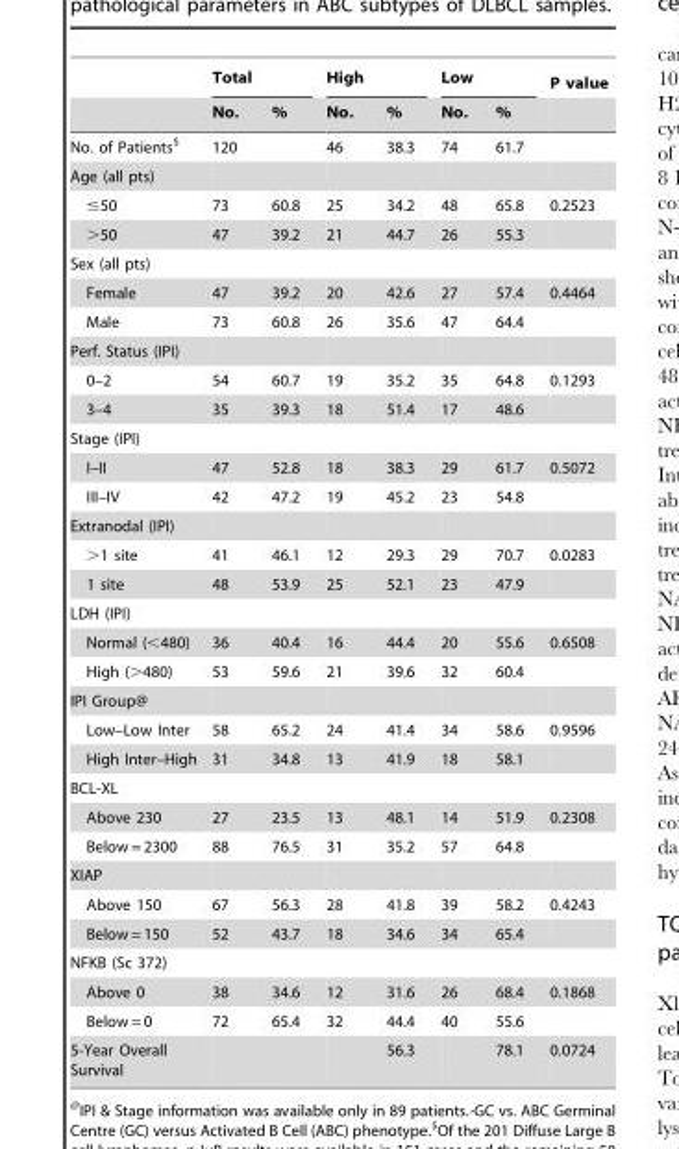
<table><thead><tr><td rowspan="2"></td><td colspan="2">Total</td><td colspan="2">High</td><td colspan="2">Low</td><td rowspan="2">P value</td></tr><tr><td>No.</td><td>%</td><td>No.</td><td>%</td><td>No.</td><td>%</td></tr></thead><tbody><tr><td>No. of Patients<sup>$</sup></td><td>120</td><td></td><td>46</td><td>38.3</td><td>74</td><td>61.7</td><td></td></tr><tr><td colspan="8">Age (all pts)</td></tr><tr><td>≤50</td><td>73</td><td>60.8</td><td>25</td><td>34.2</td><td>48</td><td>65.8</td><td>0.2523</td></tr><tr><td>&gt;50</td><td>47</td><td>39.2</td><td>21</td><td>44.7</td><td>26</td><td>55.3</td><td></td></tr><tr><td colspan="8">Sex (all pts)</td></tr><tr><td>Female</td><td>47</td><td>39.2</td><td>20</td><td>42.6</td><td>27</td><td>57.4</td><td>0.4464</td></tr><tr><td>Male</td><td>73</td><td>60.8</td><td>26</td><td>35.6</td><td>47</td><td>64.4</td><td></td></tr><tr><td colspan="8">Perf. Status (IPI)</td></tr><tr><td>0–2</td><td>54</td><td>60.7</td><td>19</td><td>35.2</td><td>35</td><td>64.8</td><td>0.1293</td></tr><tr><td>3–4</td><td>35</td><td>39.3</td><td>18</td><td>51.4</td><td>17</td><td>48.6</td><td></td></tr><tr><td colspan="8">Stage (IPI)</td></tr><tr><td>I–II</td><td>47</td><td>52.8</td><td>18</td><td>38.3</td><td>29</td><td>61.7</td><td>0.5072</td></tr><tr><td>III–IV</td><td>42</td><td>47.2</td><td>19</td><td>45.2</td><td>23</td><td>54.8</td><td></td></tr><tr><td colspan="8">Extranodal (IPI)</td></tr><tr><td>&gt;1 site</td><td>41</td><td>46.1</td><td>12</td><td>29.3</td><td>29</td><td>70.7</td><td>0.0283</td></tr><tr><td>1 site</td><td>48</td><td>53.9</td><td>25</td><td>52.1</td><td>23</td><td>47.9</td><td></td></tr><tr><td colspan="8">LDH (IPI)</td></tr><tr><td>Normal (&lt;480)</td><td>36</td><td>40.4</td><td>16</td><td>44.4</td><td>20</td><td>55.6</td><td>0.6508</td></tr><tr><td>High (&gt;480)</td><td>53</td><td>59.6</td><td>21</td><td>39.6</td><td>32</td><td>60.4</td><td></td></tr><tr><td colspan="8">IPI Group@</td></tr><tr><td>Low–Low Inter</td><td>58</td><td>65.2</td><td>24</td><td>41.4</td><td>34</td><td>58.6</td><td>0.9596</td></tr><tr><td>High Inter–High</td><td>31</td><td>34.8</td><td>13</td><td>41.9</td><td>18</td><td>58.1</td><td></td></tr><tr><td colspan="8">BCL-XL</td></tr><tr><td>Above 230</td><td>27</td><td>23.5</td><td>13</td><td>48.1</td><td>14</td><td>51.9</td><td>0.2308</td></tr><tr><td>Below = 2300</td><td>88</td><td>76.5</td><td>31</td><td>35.2</td><td>57</td><td>64.8</td><td></td></tr><tr><td colspan="8">XIAP</td></tr><tr><td>Above 150</td><td>67</td><td>56.3</td><td>28</td><td>41.8</td><td>39</td><td>58.2</td><td>0.4243</td></tr><tr><td>Below = 150</td><td>52</td><td>43.7</td><td>18</td><td>34.6</td><td>34</td><td>65.4</td><td></td></tr><tr><td colspan="8">NFKB (Sc 372)</td></tr><tr><td>Above 0</td><td>38</td><td>34.6</td><td>12</td><td>31.6</td><td>26</td><td>68.4</td><td>0.1868</td></tr><tr><td>Below = 0</td><td>72</td><td>65.4</td><td>32</td><td>44.4</td><td>40</td><td>55.6</td><td></td></tr><tr><td>5-Year Overall Survival</td><td></td><td></td><td></td><td>56.3</td><td></td><td>78.1</td><td>0.0724</td></tr></tbody></table>